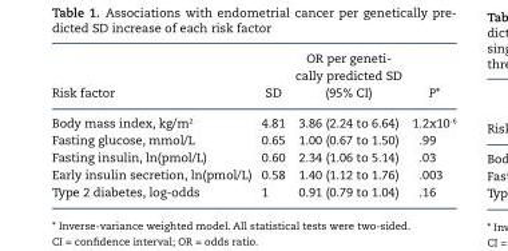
<table><thead><tr><td>Risk factor</td><td>SD</td><td>OR per geneti- cally predicted SD (95% CI)</td><td>P*</td></tr></thead><tbody><tr><td>Body mass index, kg/m<sup>2</sup></td><td>4.81</td><td>3.86 (2.24 to 6.64)</td><td>1.2x10<sup>-6</sup></td></tr><tr><td>Fasting glucose, mmol/L</td><td>0.65</td><td>1.00 (0.67 to 1.50)</td><td>.99</td></tr><tr><td>Fasting insulin, ln(pmol/L)</td><td>0.60</td><td>2.34 (1.06 to 5.14)</td><td>.03</td></tr><tr><td>Early insulin secretion, ln(pmol/L)</td><td>0.58</td><td>1.40 (1.12 to 1.76)</td><td>.003</td></tr><tr><td>Type 2 diabetes, log-odds</td><td>1</td><td>0.91 (0.79 to 1.04)</td><td>.16</td></tr></tbody></table>